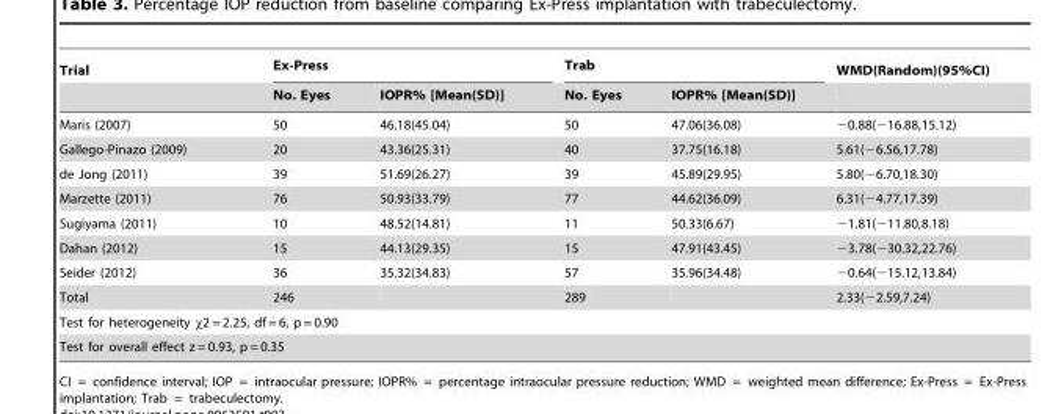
<table><thead><tr><td rowspan="2">Trial</td><td colspan="2">Ex-Press</td><td colspan="2">Trab</td><td rowspan="2">WMD(Random)(95%CI)</td></tr><tr><td>No. Eyes</td><td>IOPR% [Mean(SD)]</td><td>No. Eyes</td><td>IOPR% [Mean(SD)]</td></tr></thead><tbody><tr><td>Maris (2007)</td><td>50</td><td>46.18(45.04)</td><td>50</td><td>47.06(36.08)</td><td>−0.88(−16.88,15.12)</td></tr><tr><td>Gallego-Pinazo (2009)</td><td>20</td><td>43.36(25.31)</td><td>40</td><td>37.75(16.18)</td><td>5.61(−6.56,17.78)</td></tr><tr><td>de Jong (2011)</td><td>39</td><td>51.69(26.27)</td><td>39</td><td>45.89(29.95)</td><td>5.80(−6.70,18.30)</td></tr><tr><td>Marzette (2011)</td><td>76</td><td>50.93(33.79)</td><td>77</td><td>44.62(36.09)</td><td>6.31(−4.77,17.39)</td></tr><tr><td>Sugiyama (2011)</td><td>10</td><td>48.52(14.81)</td><td>11</td><td>50.33(6.67)</td><td>−1.81(−11.80,8.18)</td></tr><tr><td>Dahan (2012)</td><td>15</td><td>44.13(29.35)</td><td>15</td><td>47.91(43.45)</td><td>−3.78(−30.32,22.76)</td></tr><tr><td>Seider (2012)</td><td>36</td><td>35.32(34.83)</td><td>57</td><td>35.96(34.48)</td><td>−0.64(−15.12,13.84)</td></tr><tr><td>Total</td><td>246</td><td></td><td>289</td><td></td><td>2.33(−2.59,7.24)</td></tr><tr><td colspan="6">Test for heterogeneity χ2 = 2.25, df = 6, p = 0.90</td></tr><tr><td colspan="6">Test for overall effect z = 0.93, p = 0.35</td></tr></tbody></table>